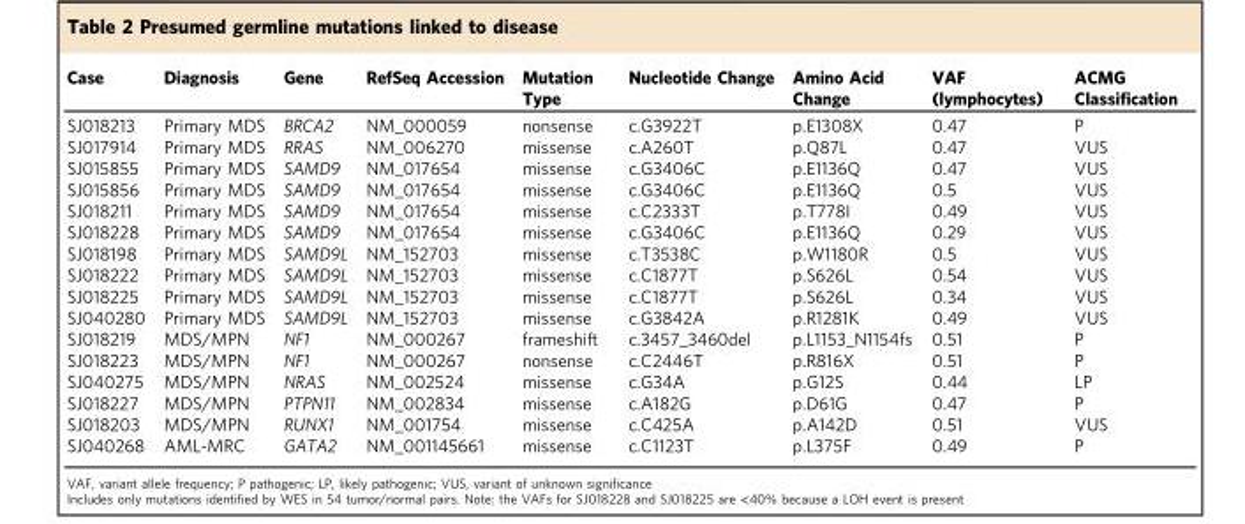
<table><thead><tr><td>Case</td><td>Diagnosis</td><td>Gene</td><td>RefSeq Accession</td><td>Mutation Type</td><td>Nucleotide Change</td><td>Amino Acid Change</td><td>VAF (lymphocytes)</td><td>ACMG Classification</td></tr></thead><tbody><tr><td>SJ018213</td><td>Primary MDS</td><td>BRCA2</td><td>NM_000059</td><td>nonsense</td><td>c.G3922T</td><td>p.E1308X</td><td>0.47</td><td>P</td></tr><tr><td>SJ017914</td><td>Primary MDS</td><td>RRAS</td><td>NM_006270</td><td>missense</td><td>c.A260T</td><td>p.Q87L</td><td>0.47</td><td>VUS</td></tr><tr><td>SJ015855</td><td>Primary MDS</td><td>SAMD9</td><td>NM_017654</td><td>missense</td><td>c.G3406C</td><td>p.E1136Q</td><td>0.47</td><td>VUS</td></tr><tr><td>SJ015856</td><td>Primary MDS</td><td>SAMD9</td><td>NM_017654</td><td>missense</td><td>c.G3406C</td><td>p.E1136Q</td><td>0.5</td><td>VUS</td></tr><tr><td>SJ018211</td><td>Primary MDS</td><td>SAMD9</td><td>NM_017654</td><td>missense</td><td>c.C2333T</td><td>p.T778I</td><td>0.49</td><td>VUS</td></tr><tr><td>SJ018228</td><td>Primary MDS</td><td>SAMD9</td><td>NM_017654</td><td>missense</td><td>c.G3406C</td><td>p.E1136Q</td><td>0.29</td><td>VUS</td></tr><tr><td>SJ018198</td><td>Primary MDS</td><td>SAMD9L</td><td>NM_152703</td><td>missense</td><td>c.T3538C</td><td>p.W1180R</td><td>0.5</td><td>VUS</td></tr><tr><td>SJ018222</td><td>Primary MDS</td><td>SAMD9L</td><td>NM_152703</td><td>missense</td><td>c.C1877T</td><td>p.S626L</td><td>0.54</td><td>VUS</td></tr><tr><td>SJ018225</td><td>Primary MDS</td><td>SAMD9L</td><td>NM_152703</td><td>missense</td><td>c.C1877T</td><td>p.S626L</td><td>0.34</td><td>VUS</td></tr><tr><td>SJ040280</td><td>Primary MDS</td><td>SAMD9L</td><td>NM_152703</td><td>missense</td><td>c.G3842A</td><td>p.R1281K</td><td>0.49</td><td>VUS</td></tr><tr><td>SJ018219</td><td>MDS/MPN</td><td>NF1</td><td>NM_000267</td><td>frameshift</td><td>c.3457_3460del</td><td>p.L1153_N1154fs</td><td>0.51</td><td>P</td></tr><tr><td>SJ018223</td><td>MDS/MPN</td><td>NF1</td><td>NM_000267</td><td>nonsense</td><td>c.C2446T</td><td>p.R816X</td><td>0.51</td><td>P</td></tr><tr><td>SJ040275</td><td>MDS/MPN</td><td>NRAS</td><td>NM_002524</td><td>missense</td><td>c.G34A</td><td>p.G12S</td><td>0.44</td><td>LP</td></tr><tr><td>SJ018227</td><td>MDS/MPN</td><td>PTPN11</td><td>NM_002834</td><td>missense</td><td>c.A182G</td><td>p.D61G</td><td>0.47</td><td>P</td></tr><tr><td>SJ018203</td><td>MDS/MPN</td><td>RUNX1</td><td>NM_001754</td><td>missense</td><td>c.C425A</td><td>p.A142D</td><td>0.51</td><td>VUS</td></tr><tr><td>SJ040268</td><td>AML-MRC</td><td>GATA2</td><td>NM_001145661</td><td>missense</td><td>c.C1123T</td><td>p.L375F</td><td>0.49</td><td>P</td></tr></tbody></table>